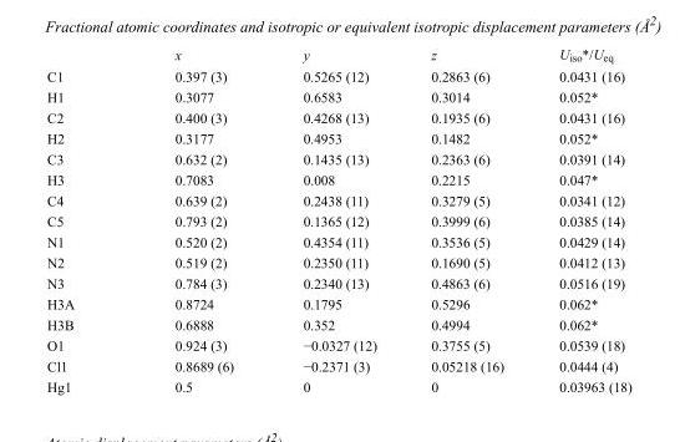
<table><thead><tr><td></td><td>x</td><td>y</td><td>z</td><td>U<sub>iso</sub>*/U<sub>eq</sub></td></tr></thead><tbody><tr><td>C1</td><td>0.397 (3)</td><td>0.5265 (12)</td><td>0.2863 (6)</td><td>0.0431 (16)</td></tr><tr><td>H1</td><td>0.3077</td><td>0.6583</td><td>0.3014</td><td>0.052*</td></tr><tr><td>C2</td><td>0.400 (3)</td><td>0.4268 (13)</td><td>0.1935 (6)</td><td>0.0431 (16)</td></tr><tr><td>H2</td><td>0.3177</td><td>0.4953</td><td>0.1482</td><td>0.052*</td></tr><tr><td>C3</td><td>0.632 (2)</td><td>0.1435 (13)</td><td>0.2363 (6)</td><td>0.0391 (14)</td></tr><tr><td>H3</td><td>0.7083</td><td>0.008</td><td>0.2215</td><td>0.047*</td></tr><tr><td>C4</td><td>0.639 (2)</td><td>0.2438 (11)</td><td>0.3279 (5)</td><td>0.0341 (12)</td></tr><tr><td>C5</td><td>0.793 (2)</td><td>0.1365 (12)</td><td>0.3999 (6)</td><td>0.0385 (14)</td></tr><tr><td>N1</td><td>0.520 (2)</td><td>0.4354 (11)</td><td>0.3536 (5)</td><td>0.0429 (14)</td></tr><tr><td>N2</td><td>0.519 (2)</td><td>0.2350 (11)</td><td>0.1690 (5)</td><td>0.0412 (13)</td></tr><tr><td>N3</td><td>0.784 (3)</td><td>0.2340 (13)</td><td>0.4863 (6)</td><td>0.0516 (19)</td></tr><tr><td>H3A</td><td>0.8724</td><td>0.1795</td><td>0.5296</td><td>0.062*</td></tr><tr><td>H3B</td><td>0.6888</td><td>0.352</td><td>0.4994</td><td>0.062*</td></tr><tr><td>O1</td><td>0.924 (3)</td><td>−0.0327 (12)</td><td>0.3755 (5)</td><td>0.0539 (18)</td></tr><tr><td>Cl1</td><td>0.8689 (6)</td><td>−0.2371 (3)</td><td>0.05218 (16)</td><td>0.0444 (4)</td></tr><tr><td>Hg1</td><td>0.5</td><td>0</td><td>0</td><td>0.03963 (18)</td></tr></tbody></table>